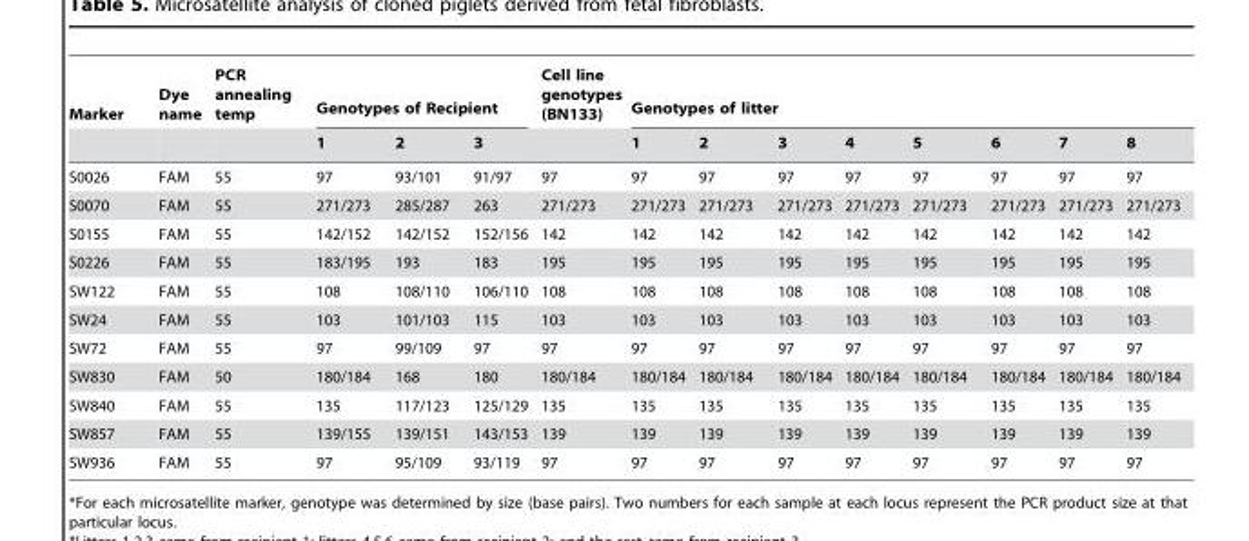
<table><thead><tr><td rowspan="2">Marker</td><td rowspan="2">Dye name</td><td rowspan="2">PCR annealing temp</td><td colspan="3">Genotypes of Recipient</td><td rowspan="2">Cell line genotypes (BN133)</td><td colspan="8">Genotypes of litter</td></tr><tr><td>1</td><td>2</td><td>3</td><td>1</td><td>2</td><td>3</td><td>4</td><td>5</td><td>6</td><td>7</td><td>8</td></tr></thead><tbody><tr><td>S0026</td><td>FAM</td><td>55</td><td>97</td><td>93/101</td><td>91/97</td><td>97</td><td>97</td><td>97</td><td>97</td><td>97</td><td>97</td><td>97</td><td>97</td><td>97</td></tr><tr><td>S0070</td><td>FAM</td><td>55</td><td>271/273</td><td>285/287</td><td>263</td><td>271/273</td><td>271/273</td><td>271/273</td><td>271/273</td><td>271/273</td><td>271/273</td><td>271/273</td><td>271/273</td><td>271/273</td></tr><tr><td>S0155</td><td>FAM</td><td>55</td><td>142/152</td><td>142/152</td><td>152/156</td><td>142</td><td>142</td><td>142</td><td>142</td><td>142</td><td>142</td><td>142</td><td>142</td><td>142</td></tr><tr><td>S0226</td><td>FAM</td><td>55</td><td>183/195</td><td>193</td><td>183</td><td>195</td><td>195</td><td>195</td><td>195</td><td>195</td><td>195</td><td>195</td><td>195</td><td>195</td></tr><tr><td>SW122</td><td>FAM</td><td>55</td><td>108</td><td>108/110</td><td>106/110</td><td>108</td><td>108</td><td>108</td><td>108</td><td>108</td><td>108</td><td>108</td><td>108</td><td>108</td></tr><tr><td>SW24</td><td>FAM</td><td>55</td><td>103</td><td>101/103</td><td>115</td><td>103</td><td>103</td><td>103</td><td>103</td><td>103</td><td>103</td><td>103</td><td>103</td><td>103</td></tr><tr><td>SW72</td><td>FAM</td><td>55</td><td>97</td><td>99/109</td><td>97</td><td>97</td><td>97</td><td>97</td><td>97</td><td>97</td><td>97</td><td>97</td><td>97</td><td>97</td></tr><tr><td>SW830</td><td>FAM</td><td>50</td><td>180/184</td><td>168</td><td>180</td><td>180/184</td><td>180/184</td><td>180/184</td><td>180/184</td><td>180/184</td><td>180/184</td><td>180/184</td><td>180/184</td><td>180/184</td></tr><tr><td>SW840</td><td>FAM</td><td>55</td><td>135</td><td>117/123</td><td>125/129</td><td>135</td><td>135</td><td>135</td><td>135</td><td>135</td><td>135</td><td>135</td><td>135</td><td>135</td></tr><tr><td>SW857</td><td>FAM</td><td>55</td><td>139/155</td><td>139/151</td><td>143/153</td><td>139</td><td>139</td><td>139</td><td>139</td><td>139</td><td>139</td><td>139</td><td>139</td><td>139</td></tr><tr><td>SW936</td><td>FAM</td><td>55</td><td>97</td><td>95/109</td><td>93/119</td><td>97</td><td>97</td><td>97</td><td>97</td><td>97</td><td>97</td><td>97</td><td>97</td><td>97</td></tr></tbody></table>